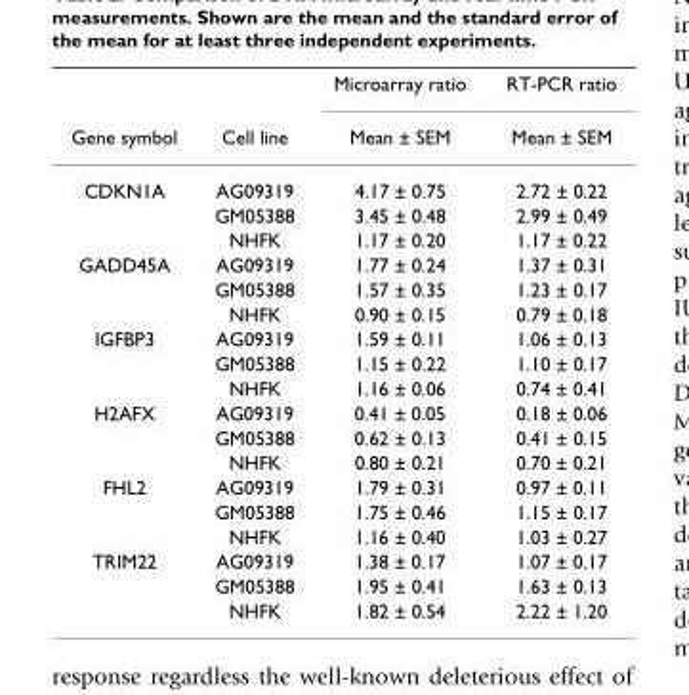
<table><thead><tr><td rowspan="2">Gene symbol</td><td rowspan="2">Cell line</td><td rowspan="2">Microarray ratio Mean ± SEM</td><td rowspan="2">RT-PCR ratio Mean ± SEM</td></tr><tr></tr></thead><tbody><tr><td rowspan="3">CDKN1A</td><td>AG09319</td><td>4.17 ± 0.75</td><td>2.72 ± 0.22</td></tr><tr><td>GM05388</td><td>3.45 ± 0.48</td><td>2.99 ± 0.49</td></tr><tr><td>NHFK</td><td>1.17 ± 0.20</td><td>1.17 ± 0.22</td></tr><tr><td rowspan="3">GADD45A</td><td>AG09319</td><td>1.77 ± 0.24</td><td>1.37 ± 0.31</td></tr><tr><td>GM05388</td><td>1.57 ± 0.35</td><td>1.23 ± 0.17</td></tr><tr><td>NHFK</td><td>0.90 ± 0.15</td><td>0.79 ± 0.18</td></tr><tr><td rowspan="3">IGFBP3</td><td>AG09319</td><td>1.59 ± 0.11</td><td>1.06 ± 0.13</td></tr><tr><td>GM05388</td><td>1.15 ± 0.22</td><td>1.10 ± 0.17</td></tr><tr><td>NHFK</td><td>1.16 ± 0.06</td><td>0.74 ± 0.41</td></tr><tr><td rowspan="3">H2AFX</td><td>AG09319</td><td>0.41 ± 0.05</td><td>0.18 ± 0.06</td></tr><tr><td>GM05388</td><td>0.62 ± 0.13</td><td>0.41 ± 0.15</td></tr><tr><td>NHFK</td><td>0.80 ± 0.21</td><td>0.70 ± 0.21</td></tr><tr><td rowspan="3">FHL2</td><td>AG09319</td><td>1.79 ± 0.31</td><td>0.97 ± 0.11</td></tr><tr><td>GM05388</td><td>1.75 ± 0.46</td><td>1.15 ± 0.17</td></tr><tr><td>NHFK</td><td>1.16 ± 0.40</td><td>1.03 ± 0.27</td></tr><tr><td rowspan="3">TRIM22</td><td>AG09319</td><td>1.38 ± 0.17</td><td>1.07 ± 0.17</td></tr><tr><td>GM05388</td><td>1.95 ± 0.41</td><td>1.63 ± 0.13</td></tr><tr><td>NHFK</td><td>1.82 ± 0.54</td><td>2.22 ± 1.20</td></tr></tbody></table>